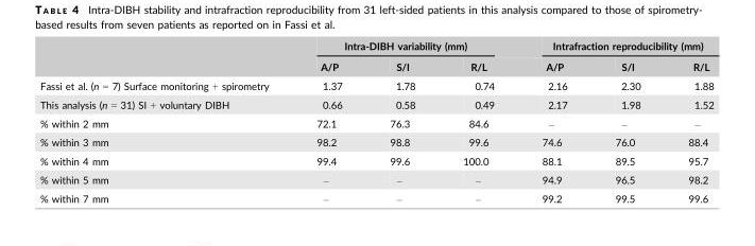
<table><thead><tr><td rowspan="2"></td><td colspan="3">Intra-DIBH variability (mm)</td><td colspan="3">Intrafraction reproducibility (mm)</td></tr><tr><td>A/P</td><td>S/I</td><td>R/L</td><td>A/P</td><td>S/I</td><td>R/L</td></tr></thead><tbody><tr><td>Fassi et al. (n = 7) Surface monitoring + spirometry</td><td>1.37</td><td>1.78</td><td>0.74</td><td>2.16</td><td>2.30</td><td>1.88</td></tr><tr><td>This analysis (n = 31) SI + voluntary DIBH</td><td>0.66</td><td>0.58</td><td>0.49</td><td>2.17</td><td>1.98</td><td>1.52</td></tr><tr><td>% within 2 mm</td><td>72.1</td><td>76.3</td><td>84.6</td><td>–</td><td>–</td><td>–</td></tr><tr><td>% within 3 mm</td><td>98.2</td><td>98.8</td><td>99.6</td><td>74.6</td><td>76.0</td><td>88.4</td></tr><tr><td>% within 4 mm</td><td>99.4</td><td>99.6</td><td>100.0</td><td>88.1</td><td>89.5</td><td>95.7</td></tr><tr><td>% within 5 mm</td><td>–</td><td>–</td><td>–</td><td>94.9</td><td>96.5</td><td>98.2</td></tr><tr><td>% within 7 mm</td><td>–</td><td>–</td><td>–</td><td>99.2</td><td>99.5</td><td>99.6</td></tr></tbody></table>